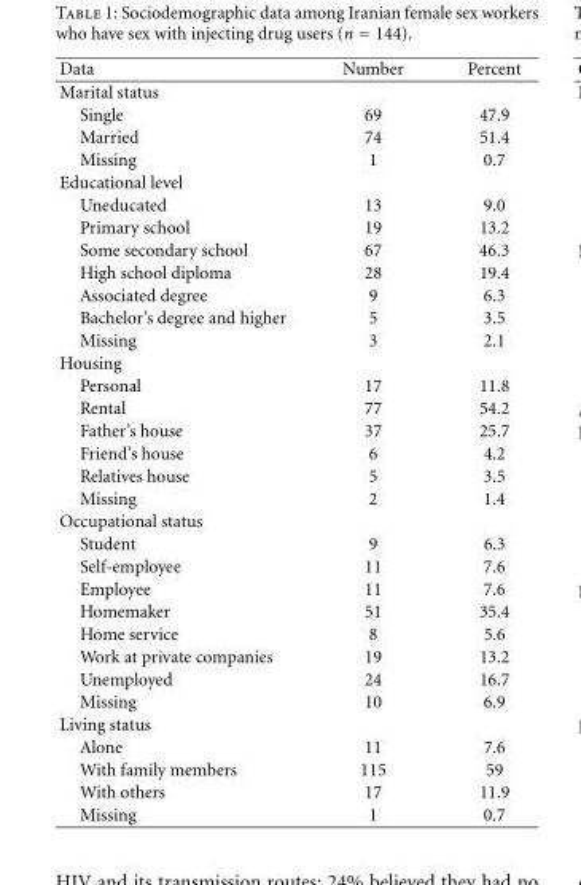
<table><thead><tr><td>Data</td><td>Number</td><td>Percent</td></tr></thead><tbody><tr><td colspan="3">Marital status</td></tr><tr><td>Single</td><td>69</td><td>47.9</td></tr><tr><td>Married</td><td>74</td><td>51.4</td></tr><tr><td>Missing</td><td>1</td><td>0.7</td></tr><tr><td colspan="3">Educational level</td></tr><tr><td>Uneducated</td><td>13</td><td>9.0</td></tr><tr><td>Primary school</td><td>19</td><td>13.2</td></tr><tr><td>Some secondary school</td><td>67</td><td>46.3</td></tr><tr><td>High school diploma</td><td>28</td><td>19.4</td></tr><tr><td>Associated degree</td><td>9</td><td>6.3</td></tr><tr><td>Bachelor’s degree and higher</td><td>5</td><td>3.5</td></tr><tr><td>Missing</td><td>3</td><td>2.1</td></tr><tr><td colspan="3">Housing</td></tr><tr><td>Personal</td><td>17</td><td>11.8</td></tr><tr><td>Rental</td><td>77</td><td>54.2</td></tr><tr><td>Father’s house</td><td>37</td><td>25.7</td></tr><tr><td>Friend’s house</td><td>6</td><td>4.2</td></tr><tr><td>Relatives house</td><td>5</td><td>3.5</td></tr><tr><td>Missing</td><td>2</td><td>1.4</td></tr><tr><td colspan="3">Occupational status</td></tr><tr><td>Student</td><td>9</td><td>6.3</td></tr><tr><td>Self-employee</td><td>11</td><td>7.6</td></tr><tr><td>Employee</td><td>11</td><td>7.6</td></tr><tr><td>Homemaker</td><td>51</td><td>35.4</td></tr><tr><td>Home service</td><td>8</td><td>5.6</td></tr><tr><td>Work at private companies</td><td>19</td><td>13.2</td></tr><tr><td>Unemployed</td><td>24</td><td>16.7</td></tr><tr><td>Missing</td><td>10</td><td>6.9</td></tr><tr><td colspan="3">Living status</td></tr><tr><td>Alone</td><td>11</td><td>7.6</td></tr><tr><td>With family members</td><td>115</td><td>59</td></tr><tr><td>With others</td><td>17</td><td>11.9</td></tr><tr><td>Missing</td><td>1</td><td>0.7</td></tr></tbody></table>